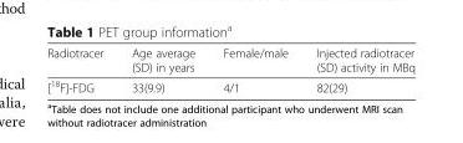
<table><thead><tr><td>Radiotracer</td><td>Age average (SD) in years</td><td>Female/male</td><td>Injected radiotracer (SD) activity in MBq</td></tr></thead><tbody><tr><td>[<sup>18</sup>F]-FDG</td><td>33(9.9)</td><td>4/1</td><td>82(29)</td></tr></tbody></table>